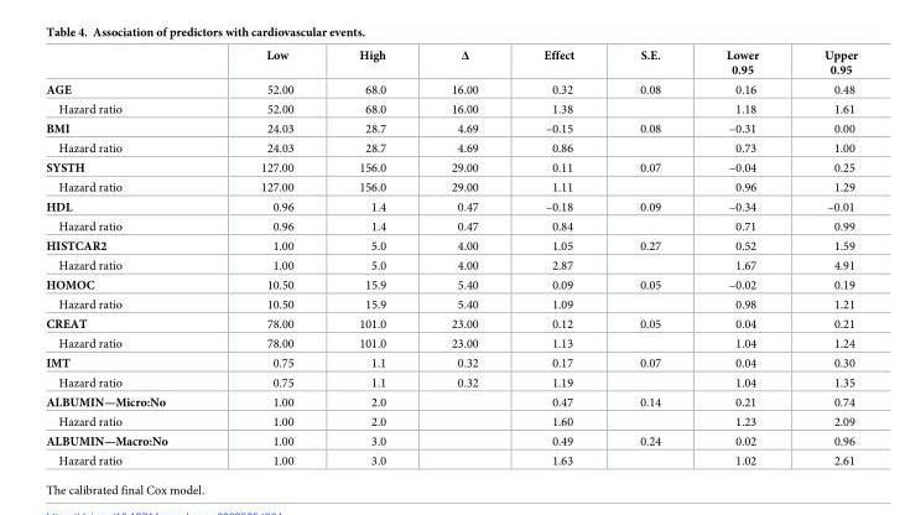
<table><thead><tr><td></td><td>Low</td><td>High</td><td>Δ</td><td>Effect</td><td>S.E.</td><td>Lower 0.95</td><td>Upper 0.95</td></tr></thead><tbody><tr><td>AGE</td><td>52.00</td><td>68.0</td><td>16.00</td><td>0.32</td><td>0.08</td><td>0.16</td><td>0.48</td></tr><tr><td>Hazard ratio</td><td>52.00</td><td>68.0</td><td>16.00</td><td>1.38</td><td></td><td>1.18</td><td>1.61</td></tr><tr><td>BMI</td><td>24.03</td><td>28.7</td><td>4.69</td><td>–0.15</td><td>0.08</td><td>–0.31</td><td>0.00</td></tr><tr><td>Hazard ratio</td><td>24.03</td><td>28.7</td><td>4.69</td><td>0.86</td><td></td><td>0.73</td><td>1.00</td></tr><tr><td>SYSTH</td><td>127.00</td><td>156.0</td><td>29.00</td><td>0.11</td><td>0.07</td><td>–0.04</td><td>0.25</td></tr><tr><td>Hazard ratio</td><td>127.00</td><td>156.0</td><td>29.00</td><td>1.11</td><td></td><td>0.96</td><td>1.29</td></tr><tr><td>HDL</td><td>0.96</td><td>1.4</td><td>0.47</td><td>–0.18</td><td>0.09</td><td>–0.34</td><td>–0.01</td></tr><tr><td>Hazard ratio</td><td>0.96</td><td>1.4</td><td>0.47</td><td>0.84</td><td></td><td>0.71</td><td>0.99</td></tr><tr><td>HISTCAR2</td><td>1.00</td><td>5.0</td><td>4.00</td><td>1.05</td><td>0.27</td><td>0.52</td><td>1.59</td></tr><tr><td>Hazard ratio</td><td>1.00</td><td>5.0</td><td>4.00</td><td>2.87</td><td></td><td>1.67</td><td>4.91</td></tr><tr><td>HOMOC</td><td>10.50</td><td>15.9</td><td>5.40</td><td>0.09</td><td>0.05</td><td>–0.02</td><td>0.19</td></tr><tr><td>Hazard ratio</td><td>10.50</td><td>15.9</td><td>5.40</td><td>1.09</td><td></td><td>0.98</td><td>1.21</td></tr><tr><td>CREAT</td><td>78.00</td><td>101.0</td><td>23.00</td><td>0.12</td><td>0.05</td><td>0.04</td><td>0.21</td></tr><tr><td>Hazard ratio</td><td>78.00</td><td>101.0</td><td>23.00</td><td>1.13</td><td></td><td>1.04</td><td>1.24</td></tr><tr><td>IMT</td><td>0.75</td><td>1.1</td><td>0.32</td><td>0.17</td><td>0.07</td><td>0.04</td><td>0.30</td></tr><tr><td>Hazard ratio</td><td>0.75</td><td>1.1</td><td>0.32</td><td>1.19</td><td></td><td>1.04</td><td>1.35</td></tr><tr><td>ALBUMIN—Micro:No</td><td>1.00</td><td>2.0</td><td></td><td>0.47</td><td>0.14</td><td>0.21</td><td>0.74</td></tr><tr><td>Hazard ratio</td><td>1.00</td><td>2.0</td><td></td><td>1.60</td><td></td><td>1.23</td><td>2.09</td></tr><tr><td>ALBUMIN—Macro:No</td><td>1.00</td><td>3.0</td><td></td><td>0.49</td><td>0.24</td><td>0.02</td><td>0.96</td></tr><tr><td>Hazard ratio</td><td>1.00</td><td>3.0</td><td></td><td>1.63</td><td></td><td>1.02</td><td>2.61</td></tr></tbody></table>